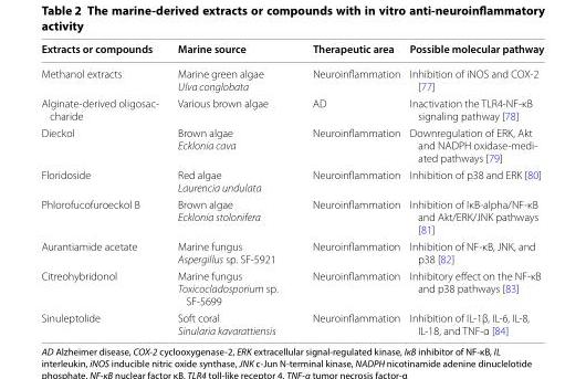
<table><thead><tr><td>Extracts or compounds</td><td>Marine source</td><td>Therapeutic area</td><td>Possible molecular pathway</td></tr></thead><tbody><tr><td>Methanol extracts</td><td>Marine green algae Ulva conglobata</td><td>Neuroinflammation</td><td>Inhibition of iNOS and COX‑2 [77]</td></tr><tr><td>Alginate‑derived oligosac‑ charide</td><td>Various brown algae</td><td>AD</td><td>Inactivation the TLR4‑NF‑κB signaling pathway [78]</td></tr><tr><td>Dieckol</td><td>Brown algae Ecklonia cava</td><td>Neuroinflammation</td><td>Downregulation of ERK, Akt and NADPH oxidase‑medi‑ ated pathways [79]</td></tr><tr><td>Floridoside</td><td>Red algae Laurencia undulata</td><td>Neuroinflammation</td><td>Inhibition of p38 and ERK [80]</td></tr><tr><td>Phlorofucofuroeckol B</td><td>Brown algae Ecklonia stolonifera</td><td>Neuroinflammation</td><td>Inhibition of IκB‑alpha/NF‑κB and Akt/ERK/JNK pathways [81]</td></tr><tr><td>Aurantiamide acetate</td><td>Marine fungus Aspergillus sp. SF‑5921</td><td>Neuroinflammation</td><td>Inhibition of NF‑κB, JNK, and p38 [82]</td></tr><tr><td>Citreohybridonol</td><td>Marine fungus Toxicocladosporium sp. SF‑5699</td><td>Neuroinflammation</td><td>Inhibitory effect on the NF‑κB and p38 pathways [83]</td></tr><tr><td>Sinuleptolide</td><td>Soft coral Sinularia kavarattiensis</td><td>Neuroinflammation</td><td>Inhibition of IL‑1β, IL‑6, IL‑8, IL‑18, and TNF‑α [84]</td></tr></tbody></table>